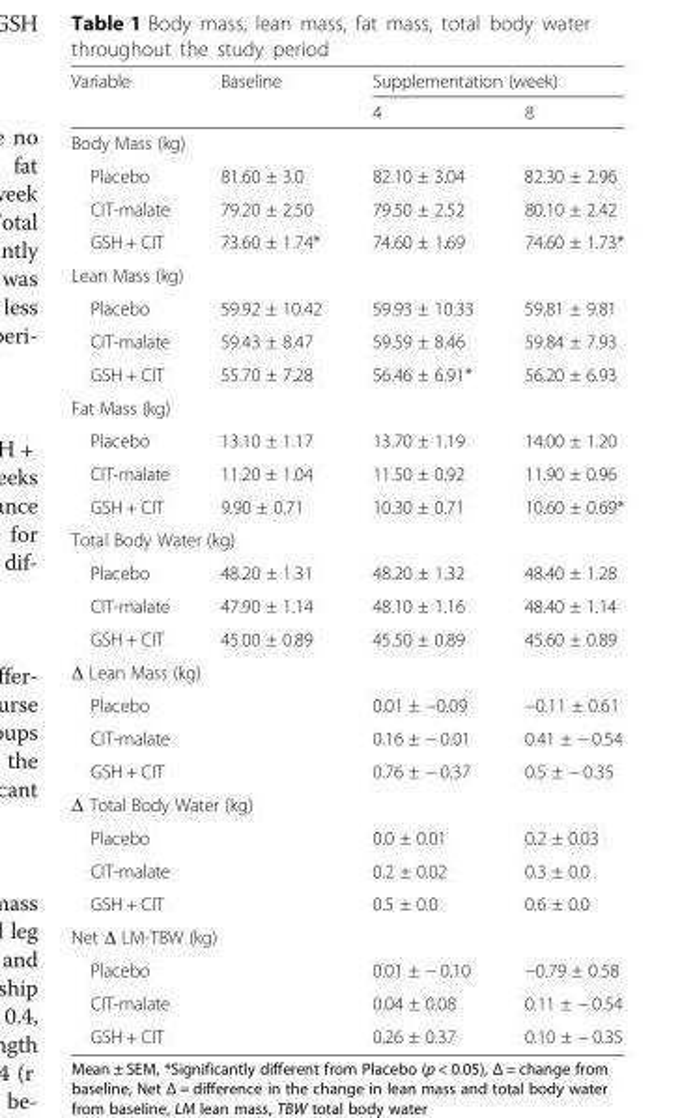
<table><thead><tr><td rowspan="2">Variable</td><td rowspan="2">Baseline</td><td colspan="2">Supplementation (week)</td></tr><tr><td>4</td><td>8</td></tr></thead><tbody><tr><td colspan="4">Body Mass (kg)</td></tr><tr><td>Placebo</td><td>81.60 ± 3.0</td><td>82.10 ± 3.04</td><td>82.30 ± 2.96</td></tr><tr><td>CIT-malate</td><td>79.20 ± 2.50</td><td>79.50 ± 2.52</td><td>80.10 ± 2.42</td></tr><tr><td>GSH + CIT</td><td>73.60 ± 1.74*</td><td>74.60 ± 1.69</td><td>74.60 ± 1.73*</td></tr><tr><td colspan="4">Lean Mass (kg)</td></tr><tr><td>Placebo</td><td>59.92 ± 10.42</td><td>59.93 ± 10.33</td><td>59.81 ± 9.81</td></tr><tr><td>CIT-malate</td><td>59.43 ± 8.47</td><td>59.59 ± 8.46</td><td>59.84 ± 7.93</td></tr><tr><td>GSH + CIT</td><td>55.70 ± 7.28</td><td>56.46 ± 6.91*</td><td>56.20 ± 6.93</td></tr><tr><td colspan="4">Fat Mass (kg)</td></tr><tr><td>Placebo</td><td>13.10 ± 1.17</td><td>13.70 ± 1.19</td><td>14.00 ± 1.20</td></tr><tr><td>CIT-malate</td><td>11.20 ± 1.04</td><td>11.50 ± 0.92</td><td>11.90 ± 0.96</td></tr><tr><td>GSH + CIT</td><td>9.90 ± 0.71</td><td>10.30 ± 0.71</td><td>10.60 ± 0.69*</td></tr><tr><td colspan="4">Total Body Water (kg)</td></tr><tr><td>Placebo</td><td>48.20 ± 1.31</td><td>48.20 ± 1.32</td><td>48.40 ± 1.28</td></tr><tr><td>CIT-malate</td><td>47.90 ± 1.14</td><td>48.10 ± 1.16</td><td>48.40 ± 1.14</td></tr><tr><td>GSH + CIT</td><td>45.00 ± 0.89</td><td>45.50 ± 0.89</td><td>45.60 ± 0.89</td></tr><tr><td colspan="4">Δ Lean Mass (kg)</td></tr><tr><td>Placebo</td><td></td><td>0.01 ± −0.09</td><td>−0.11 ± 0.61</td></tr><tr><td>CIT-malate</td><td></td><td>0.16 ± − 0.01</td><td>0.41 ± − 0.54</td></tr><tr><td>GSH + CIT</td><td></td><td>0.76 ± − 0.37</td><td>0.5 ± − 0.35</td></tr><tr><td colspan="4">Δ Total Body Water (kg)</td></tr><tr><td>Placebo</td><td></td><td>0.0 ± 0.01</td><td>0.2 ± 0.03</td></tr><tr><td>CIT-malate</td><td></td><td>0.2 ± 0.02</td><td>0.3 ± 0.0</td></tr><tr><td>GSH + CIT</td><td></td><td>0.5 ± 0.0</td><td>0.6 ± 0.0</td></tr><tr><td colspan="4">Net Δ LM-TBW (kg)</td></tr><tr><td>Placebo</td><td></td><td>0.01 ± − 0.10</td><td>−0.79 ± 0.58</td></tr><tr><td>CIT-malate</td><td></td><td>0.04 ± 0.08</td><td>0.11 ± − 0.54</td></tr><tr><td>GSH + CIT</td><td></td><td>0.26 ± 0.37</td><td>0.10 ± − 0.35</td></tr></tbody></table>